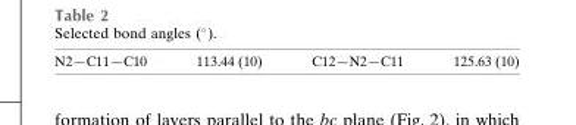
<table><tbody><tr><td>N2—C11—C10</td><td>113.44 (10)</td><td>C12—N2—C11</td><td>125.63 (10)</td></tr></tbody></table>